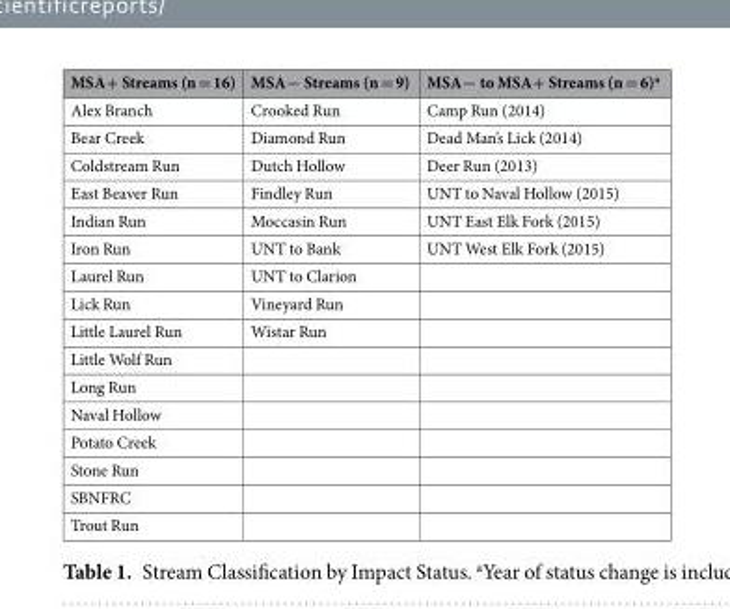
<table><thead><tr><td>MSA+ Streams (n = 16)</td><td>MSA− Streams (n = 9)</td><td>MSA− to MSA+ Streams (n = 6)<sup>a</sup></td></tr></thead><tbody><tr><td>Alex Branch</td><td>Crooked Run</td><td>Camp Run (2014)</td></tr><tr><td>Bear Creek</td><td>Diamond Run</td><td>Dead Man’s Lick (2014)</td></tr><tr><td>Coldstream Run</td><td>Dutch Hollow</td><td>Deer Run (2013)</td></tr><tr><td>East Beaver Run</td><td>Findley Run</td><td>UNT to Naval Hollow (2015)</td></tr><tr><td>Indian Run</td><td>Moccasin Run</td><td>UNT East Elk Fork (2015)</td></tr><tr><td>Iron Run</td><td>UNT to Bank</td><td>UNT West Elk Fork (2015)</td></tr><tr><td>Laurel Run</td><td>UNT to Clarion</td><td></td></tr><tr><td>Lick Run</td><td>Vineyard Run</td><td></td></tr><tr><td>Little Laurel Run</td><td>Wistar Run</td><td></td></tr><tr><td colspan="3">Little Wolf Run</td></tr><tr><td colspan="3">Long Run</td></tr><tr><td colspan="3">Naval Hollow</td></tr><tr><td colspan="3">Potato Creek</td></tr><tr><td colspan="3">Stone Run</td></tr><tr><td colspan="3">SBNFRC</td></tr><tr><td>Trout Run</td><td></td><td></td></tr></tbody></table>